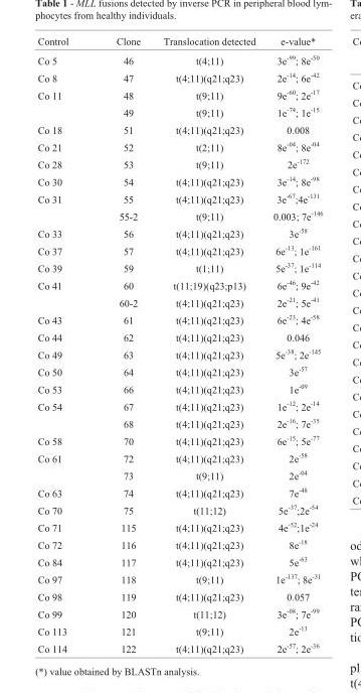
<table><thead><tr><td>Control</td><td>Clone</td><td>Translocation detected</td><td>e-value*</td></tr></thead><tbody><tr><td>Co 5</td><td>46</td><td>t(4;11)</td><td>3e<sup>-99</sup>; 8e<sup>-50</sup></td></tr><tr><td>Co 8</td><td>47</td><td>t(4;11)(q21;q23)</td><td>2e<sup>-14</sup>; 6e<sup>-42</sup></td></tr><tr><td rowspan="2">Co 11</td><td>48</td><td>t(9;11)</td><td>9e<sup>-60</sup>; 2e<sup>-17</sup></td></tr><tr><td>49</td><td>t(9;11)</td><td>1e<sup>-74</sup>; 1e<sup>-15</sup></td></tr><tr><td>Co 18</td><td>51</td><td>t(4;11)(q21;q23)</td><td>0.008</td></tr><tr><td>Co 21</td><td>52</td><td>t(2;11)</td><td>8e<sup>-04</sup>; 8e<sup>-04</sup></td></tr><tr><td>Co 28</td><td>53</td><td>t(9;11)</td><td>2e<sup>-172</sup></td></tr><tr><td>Co 30</td><td>54</td><td>t(4;11)(q21;q23)</td><td>3e<sup>-14</sup>; 8e<sup>-98</sup></td></tr><tr><td rowspan="2">Co 31</td><td>55</td><td>t(4;11)(q21;q23)</td><td>3e<sup>-67</sup>;4e<sup>-131</sup></td></tr><tr><td>55-2</td><td>t(9;11)</td><td>0.003; 7e<sup>-146</sup></td></tr><tr><td>Co 33</td><td>56</td><td>t(4;11)(q21;q23)</td><td>3e<sup>-58</sup></td></tr><tr><td>Co 37</td><td>57</td><td>t(4;11)(q21;q23)</td><td>6e<sup>-13</sup>; 1e<sup>-161</sup></td></tr><tr><td>Co 39</td><td>59</td><td>t(1;11)</td><td>5e<sup>-37</sup>; 1e<sup>-114</sup></td></tr><tr><td rowspan="2">Co 41</td><td>60</td><td>t(11;19)(q23;p13)</td><td>6e<sup>-46</sup>; 9e<sup>-42</sup></td></tr><tr><td>60-2</td><td>t(4;11)(q21;q23)</td><td>2e<sup>-21</sup>; 5e<sup>-41</sup></td></tr><tr><td>Co 43</td><td>61</td><td>t(4;11)(q21;q23)</td><td>6e<sup>-23</sup>; 4e<sup>-58</sup></td></tr><tr><td>Co 44</td><td>62</td><td>t(4;11)(q21;q23)</td><td>0.046</td></tr><tr><td>Co 49</td><td>63</td><td>t(4;11)(q21;q23)</td><td>5e<sup>-38</sup>; 2e<sup>-145</sup></td></tr><tr><td>Co 50</td><td>64</td><td>t(4;11)(q21;q23)</td><td>3e<sup>-57</sup></td></tr><tr><td>Co 53</td><td>66</td><td>t(4;11)(q21;q23)</td><td>1e<sup>-09</sup></td></tr><tr><td rowspan="2">Co 54</td><td>67</td><td>t(4;11)(q21;q23)</td><td>1e<sup>-12</sup>; 2e<sup>-14</sup></td></tr><tr><td>68</td><td>t(4;11)(q21;q23)</td><td>2e<sup>-16</sup>; 7e<sup>-35</sup></td></tr><tr><td>Co 58</td><td>70</td><td>t(4;11)(q21;q23)</td><td>6e<sup>-15</sup>; 5e<sup>-77</sup></td></tr><tr><td rowspan="2">Co 61</td><td>72</td><td>t(4;11)(q21;q23)</td><td>2e<sup>-58</sup></td></tr><tr><td>73</td><td>t(9;11)</td><td>2e<sup>-04</sup></td></tr><tr><td>Co 63</td><td>74</td><td>t(4;11)(q21;q23)</td><td>7e<sup>-48</sup></td></tr><tr><td>Co 70</td><td>75</td><td>t(11;12)</td><td>5e<sup>-37</sup>;2e<sup>-54</sup></td></tr><tr><td>Co 71</td><td>115</td><td>t(4;11)(q21;q23)</td><td>4e<sup>-52</sup>;1e<sup>-24</sup></td></tr><tr><td>Co 72</td><td>116</td><td>t(4;11)(q21;q23)</td><td>8e<sup>-18</sup></td></tr><tr><td>Co 84</td><td>117</td><td>t(4;11)(q21;q23)</td><td>5e<sup>-63</sup></td></tr><tr><td>Co 97</td><td>118</td><td>t(9;11)</td><td>1e<sup>-137</sup>; 8e<sup>-31</sup></td></tr><tr><td>Co 98</td><td>119</td><td>t(4;11)(q21;q23)</td><td>0.057</td></tr><tr><td>Co 99</td><td>120</td><td>t(11;12)</td><td>3e<sup>-08</sup>; 7e<sup>-99</sup></td></tr><tr><td>Co 113</td><td>121</td><td>t(9;11)</td><td>2e<sup>-13</sup></td></tr><tr><td>Co 114</td><td>122</td><td>t(4;11)(q21;q23)</td><td>2e<sup>-57</sup>; 2e<sup>-36</sup></td></tr></tbody></table>